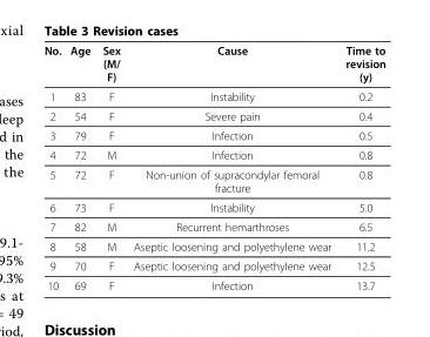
<table><thead><tr><td>No.</td><td>Age</td><td>Sex (M/ F)</td><td>Cause</td><td>Time to revision (y)</td></tr></thead><tbody><tr><td>1</td><td>83</td><td>F</td><td>Instability</td><td>0.2</td></tr><tr><td>2</td><td>54</td><td>F</td><td>Severe pain</td><td>0.4</td></tr><tr><td>3</td><td>79</td><td>F</td><td>Infection</td><td>0.5</td></tr><tr><td>4</td><td>72</td><td>M</td><td>Infection</td><td>0.8</td></tr><tr><td>5</td><td>72</td><td>F</td><td>Non-union of supracondylar femoral fracture</td><td>0.8</td></tr><tr><td>6</td><td>73</td><td>F</td><td>Instability</td><td>5.0</td></tr><tr><td>7</td><td>82</td><td>M</td><td>Recurrent hemarthroses</td><td>6.5</td></tr><tr><td>8</td><td>58</td><td>M</td><td>Aseptic loosening and polyethylene wear</td><td>11.2</td></tr><tr><td>9</td><td>70</td><td>F</td><td>Aseptic loosening and polyethylene wear</td><td>12.5</td></tr><tr><td>10</td><td>69</td><td>F</td><td>Infection</td><td>13.7</td></tr></tbody></table>